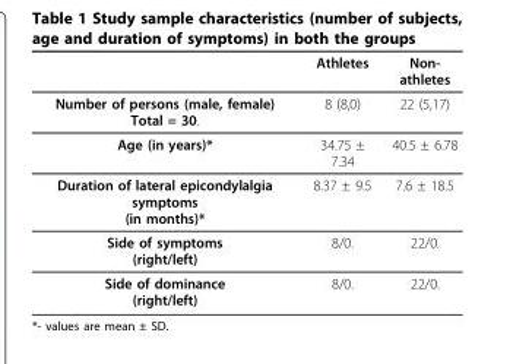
<table><thead><tr><td></td><td>Athletes</td><td>Non- athletes</td></tr></thead><tbody><tr><td>Number of persons (male, female) Total = 30.</td><td>8 (8,0)</td><td>22 (5,17)</td></tr><tr><td>Age (in years)*</td><td>34.75 ± 7.34</td><td>40.5 ± 6.78</td></tr><tr><td>Duration of lateral epicondylalgia symptoms (in months)*</td><td>8.37 ± 9.5</td><td>7.6 ± 18.5</td></tr><tr><td>Side of symptoms (right/left)</td><td>8/0.</td><td>22/0.</td></tr><tr><td>Side of dominance (right/left)</td><td>8/0.</td><td>22/0.</td></tr></tbody></table>